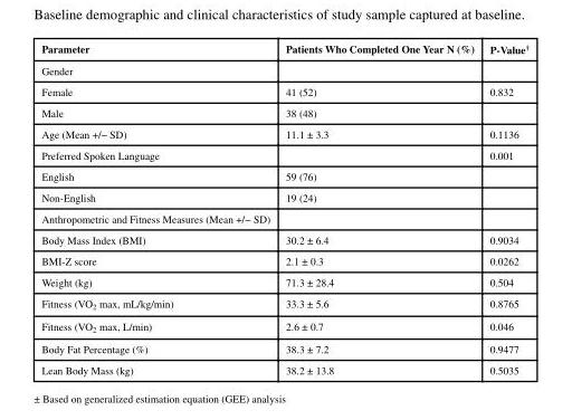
<table><thead><tr><td>Parameter</td><td>Patients Who Completed One Year N (%)</td><td>P-Value<sup>†</sup></td></tr></thead><tbody><tr><td colspan="3">Gender</td></tr><tr><td>Female</td><td>41 (52)</td><td>0.832</td></tr><tr><td>Male</td><td>38 (48)</td><td></td></tr><tr><td>Age (Mean +/− SD)</td><td>11.1 ± 3.3</td><td>0.1136</td></tr><tr><td>Preferred Spoken Language</td><td></td><td>0.001</td></tr><tr><td>English</td><td>59 (76)</td><td></td></tr><tr><td>Non-English</td><td>19 (24)</td><td></td></tr><tr><td colspan="3">Anthropometric and Fitness Measures (Mean +/− SD)</td></tr><tr><td>Body Mass Index (BMI)</td><td>30.2 ± 6.4</td><td>0.9034</td></tr><tr><td>BMI-Z score</td><td>2.1 ± 0.3</td><td>0.0262</td></tr><tr><td>Weight (kg)</td><td>71.3 ± 28.4</td><td>0.504</td></tr><tr><td>Fitness (VO<sub>2</sub> max, mL/kg/min)</td><td>33.3 ± 5.6</td><td>0.8765</td></tr><tr><td>Fitness (VO<sub>2</sub> max, L/min)</td><td>2.6 ± 0.7</td><td>0.046</td></tr><tr><td>Body Fat Percentage (%)</td><td>38.3 ± 7.2</td><td>0.9477</td></tr><tr><td>Lean Body Mass (kg)</td><td>38.2 ± 13.8</td><td>0.5035</td></tr></tbody></table>